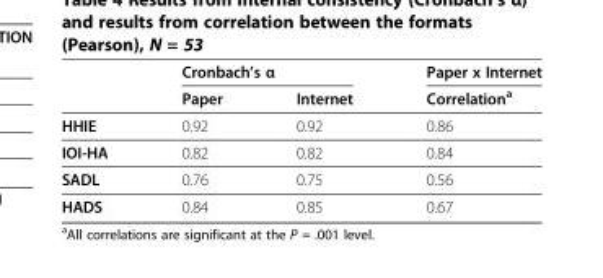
<table><thead><tr><td rowspan="2"></td><td colspan="2">Cronbach’s α</td><td rowspan="2">Paper x Internet Correlation<sup>a</sup></td></tr><tr><td>Paper</td><td>Internet</td></tr></thead><tbody><tr><td>HHIE</td><td>0.92</td><td>0.92</td><td>0.86</td></tr><tr><td>IOI-HA</td><td>0.82</td><td>0.82</td><td>0.84</td></tr><tr><td>SADL</td><td>0.76</td><td>0.75</td><td>0.56</td></tr><tr><td>HADS</td><td>0.84</td><td>0.85</td><td>0.67</td></tr></tbody></table>